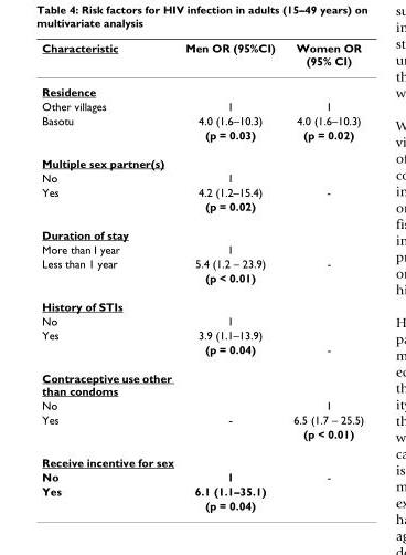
<table><thead><tr><td>Characteristic</td><td>Men OR (95%CI)</td><td>Women OR (95% CI)</td></tr></thead><tbody><tr><td colspan="3">Residence</td></tr><tr><td>Other villages</td><td>1</td><td>1</td></tr><tr><td rowspan="2">Basotu</td><td>4.0 (1.6–10.3)</td><td>4.0 (1.6–10.3)</td></tr><tr><td>(p = 0.03)</td><td>(p = 0.02)</td></tr><tr><td colspan="3">Multiple sex partner(s)</td></tr><tr><td>No</td><td>1</td><td></td></tr><tr><td rowspan="2">Yes</td><td>4.2 (1.2–15.4)</td><td>-</td></tr><tr><td>(p = 0.02)</td><td></td></tr><tr><td colspan="3">Duration of stay</td></tr><tr><td>More than I year</td><td>1</td><td></td></tr><tr><td rowspan="2">Less than 1 year</td><td>5.4 (1.2 – 23.9)</td><td>-</td></tr><tr><td>(p &lt; 0.01)</td><td></td></tr><tr><td colspan="3">History of STIs</td></tr><tr><td>No</td><td>1</td><td></td></tr><tr><td rowspan="2">Yes</td><td>3.9 (1.1–13.9)</td><td></td></tr><tr><td>(p = 0.04)</td><td>-</td></tr><tr><td colspan="3">Contraceptive use other than condoms</td></tr><tr><td>No</td><td></td><td>1</td></tr><tr><td rowspan="2">Yes</td><td>-</td><td>6.5 (1.7 – 25.5)</td></tr><tr><td></td><td>(p &lt; 0.01)</td></tr><tr><td colspan="3">Receive incentive for sex</td></tr><tr><td>No</td><td>1</td><td>-</td></tr><tr><td rowspan="2">Yes</td><td>6.1 (1.1–35.1)</td><td></td></tr><tr><td>(p = 0.04)</td><td></td></tr></tbody></table>